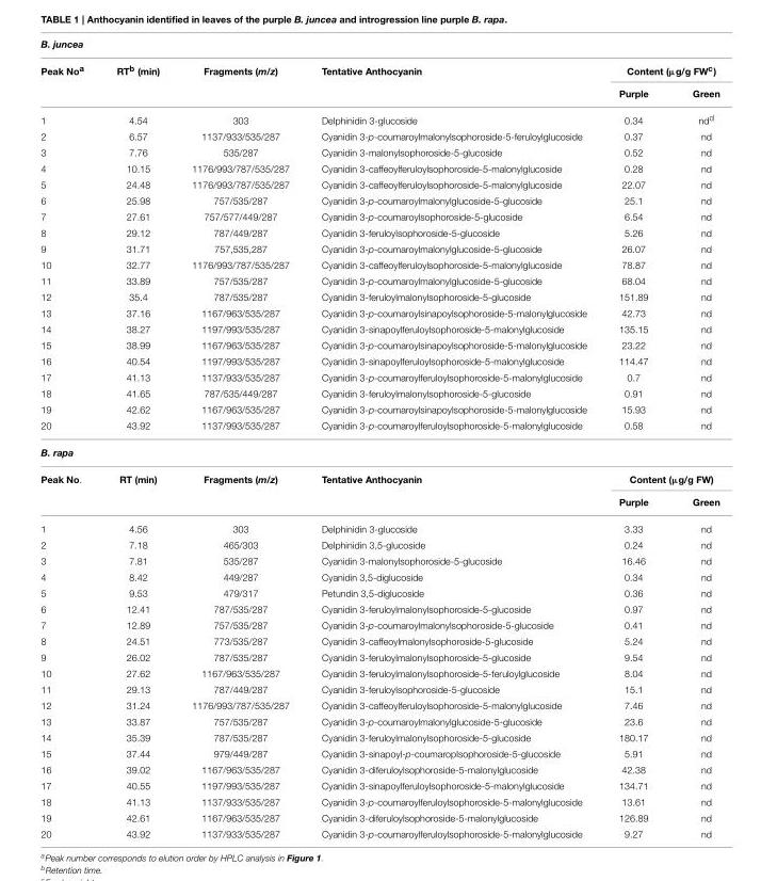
<table><thead><tr><td colspan="6">B. juncea</td></tr><tr><td rowspan="2">Peak No<sup>a</sup></td><td rowspan="2">RT<sup>b</sup> (min)</td><td rowspan="2">Fragments (m/z)</td><td rowspan="2">Tentative Anthocyanin</td><td colspan="2">Content (µg/g FW<sup>c</sup>)</td></tr><tr><td>Purple</td><td>Green</td></tr></thead><tbody><tr><td>1</td><td>4.54</td><td>303</td><td>Delphinidin 3-glucoside</td><td>0.34</td><td>nd<sup>d</sup></td></tr><tr><td>2</td><td>6.57</td><td>1137/933/535/287</td><td>Cyanidin 3-p-coumaroylmalonylsophoroside-5-feruloylglucoside</td><td>0.37</td><td>nd</td></tr><tr><td>3</td><td>7.76</td><td>535/287</td><td>Cyanidin 3-malonylsophoroside-5-glucoside</td><td>0.52</td><td>nd</td></tr><tr><td>4</td><td>10.15</td><td>1176/993/787/535/287</td><td>Cyanidin 3-caffeoylferuloylsophoroside-5-malonylglucoside</td><td>0.28</td><td>nd</td></tr><tr><td>5</td><td>24.48</td><td>1176/993/787/535/287</td><td>Cyanidin 3-caffeoylferuloylsophoroside-5-malonylglucoside</td><td>22.07</td><td>nd</td></tr><tr><td>6</td><td>25.98</td><td>757/535/287</td><td>Cyanidin 3-p-coumaroylmalonylglucoside-5-glucoside</td><td>25.1</td><td>nd</td></tr><tr><td>7</td><td>27.61</td><td>757/577/449/287</td><td>Cyanidin 3-p-coumaroylsophoroside-5-glucoside</td><td>6.54</td><td>nd</td></tr><tr><td>8</td><td>29.12</td><td>787/449/287</td><td>Cyanidin 3-feruloylsophoroside-5-glucoside</td><td>5.26</td><td>nd</td></tr><tr><td>9</td><td>31.71</td><td>757,535,287</td><td>Cyanidin 3-p-coumaroylmalonylglucoside-5-glucoside</td><td>26.07</td><td>nd</td></tr><tr><td>10</td><td>32.77</td><td>1176/993/787/535/287</td><td>Cyanidin 3-caffeoylferuloylsophoroside-5-malonylglucoside</td><td>78.87</td><td>nd</td></tr><tr><td>11</td><td>33.89</td><td>757/535/287</td><td>Cyanidin 3-p-coumaroylmalonylglucoside-5-glucoside</td><td>68.04</td><td>nd</td></tr><tr><td>12</td><td>35.4</td><td>787/535/287</td><td>Cyanidin 3-feruloylmalonylsophoroside-5-glucoside</td><td>151.89</td><td>nd</td></tr><tr><td>13</td><td>37.16</td><td>1167/963/535/287</td><td>Cyanidin 3-p-coumaroylsinapoylsophoroside-5-malonylglucoside</td><td>42.73</td><td>nd</td></tr><tr><td>14</td><td>38.27</td><td>1197/993/535/287</td><td>Cyanidin 3-sinapoylferuloylsophoroside-5-malonylglucoside</td><td>135.15</td><td>nd</td></tr><tr><td>15</td><td>38.99</td><td>1167/963/535/287</td><td>Cyanidin 3-p-coumaroylsinapoylsophoroside-5-malonylglucoside</td><td>23.22</td><td>nd</td></tr><tr><td>16</td><td>40.54</td><td>1197/993/535/287</td><td>Cyanidin 3-sinapoylferuloylsophoroside-5-malonylglucoside</td><td>114.47</td><td>nd</td></tr><tr><td>17</td><td>41.13</td><td>1137/933/535/287</td><td>Cyanidin 3-p-coumaroylferuloylsophoroside-5-malonylglucoside</td><td>0.7</td><td>nd</td></tr><tr><td>18</td><td>41.65</td><td>787/535/449/287</td><td>Cyanidin 3-feruloylmalonylsophoroside-5-glucoside</td><td>0.91</td><td>nd</td></tr><tr><td>19</td><td>42.62</td><td>1167/963/535/287</td><td>Cyanidin 3-p-coumaroylsinapoylsophoroside-5-malonylglucoside</td><td>15.93</td><td>nd</td></tr><tr><td>20</td><td>43.92</td><td>1137/993/535/287</td><td>Cyanidin 3-p-coumaroylferuloylsophoroside-5-malonylglucoside</td><td>0.58</td><td>nd</td></tr><tr><td colspan="6">B. rapa</td></tr><tr><td rowspan="2">Peak No.</td><td>RT (min)</td><td>Fragments (m/z)</td><td>Tentative Anthocyanin</td><td colspan="2">Content (µg/g FW)</td></tr><tr><td></td><td></td><td></td><td>Purple</td><td>Green</td></tr><tr><td>1</td><td>4.56</td><td>303</td><td>Delphinidin 3-glucoside</td><td>3.33</td><td>nd</td></tr><tr><td>2</td><td>7.18</td><td>465/303</td><td>Delphinidin 3,5-glucoside</td><td>0.24</td><td>nd</td></tr><tr><td>3</td><td>7.81</td><td>535/287</td><td>Cyanidin 3-malonylsophoroside-5-glucoside</td><td>16.46</td><td>nd</td></tr><tr><td>4</td><td>8.42</td><td>449/287</td><td>Cyanidin 3,5-diglucoside</td><td>0.34</td><td>nd</td></tr><tr><td>5</td><td>9.53</td><td>479/317</td><td>Petundin 3,5-diglucoside</td><td>0.36</td><td>nd</td></tr><tr><td>6</td><td>12.41</td><td>787/535/287</td><td>Cyanidin 3-feruloylmalonylsophoroside-5-glucoside</td><td>0.97</td><td>nd</td></tr><tr><td>7</td><td>12.89</td><td>757/535/287</td><td>Cyanidin 3-p-coumaroylmalonylsophoroside-5-glucoside</td><td>0.41</td><td>nd</td></tr><tr><td>8</td><td>24.51</td><td>773/535/287</td><td>Cyanidin 3-caffeoylmalonylsophoroside-5-glucoside</td><td>5.24</td><td>nd</td></tr><tr><td>9</td><td>26.02</td><td>787/535/287</td><td>Cyanidin 3-feruloylmalonylsophoroside-5-glucoside</td><td>9.54</td><td>nd</td></tr><tr><td>10</td><td>27.62</td><td>1167/963/535/287</td><td>Cyanidin 3-feruloylmalonylsophoroside-5-feruloylglucoside</td><td>8.04</td><td>nd</td></tr><tr><td>11</td><td>29.13</td><td>787/449/287</td><td>Cyanidin 3-feruloylsophoroside-5-glucoside</td><td>15.1</td><td>nd</td></tr><tr><td>12</td><td>31.24</td><td>1176/993/787/535/287</td><td>Cyanidin 3-caffeoylferuloylsophoroside-5-malonylglucoside</td><td>7.46</td><td>nd</td></tr><tr><td>13</td><td>33.87</td><td>757/535/287</td><td>Cyanidin 3-p-coumaroylmalonylglucoside-5-glucoside</td><td>23.6</td><td>nd</td></tr><tr><td>14</td><td>35.39</td><td>787/535/287</td><td>Cyanidin 3-feruloylmalonylsophoroside-5-glucoside</td><td>180.17</td><td>nd</td></tr><tr><td>15</td><td>37.44</td><td>979/449/287</td><td>Cyanidin 3-sinapoyl-p-coumaroplsophoroside-5-glucoside</td><td>5.91</td><td>nd</td></tr><tr><td>16</td><td>39.02</td><td>1167/963/535/287</td><td>Cyanidin 3-diferuloylsophoroside-5-malonylglucoside</td><td>42.38</td><td>nd</td></tr><tr><td>17</td><td>40.55</td><td>1197/993/535/287</td><td>Cyanidin 3-sinapoylferuloylsophoroside-5-malonylglucoside</td><td>134.71</td><td>nd</td></tr><tr><td>18</td><td>41.13</td><td>1137/933/535/287</td><td>Cyanidin 3-p-coumaroylferuloylsophoroside-5-malonylglucoside</td><td>13.61</td><td>nd</td></tr><tr><td>19</td><td>42.61</td><td>1167/963/535/287</td><td>Cyanidin 3-diferuloylsophoroside-5-malonylglucoside</td><td>126.89</td><td>nd</td></tr><tr><td>20</td><td>43.92</td><td>1137/933/535/287</td><td>Cyanidin 3-p-coumaroylferuloylsophoroside-5-malonylglucoside</td><td>9.27</td><td>nd</td></tr></tbody></table>